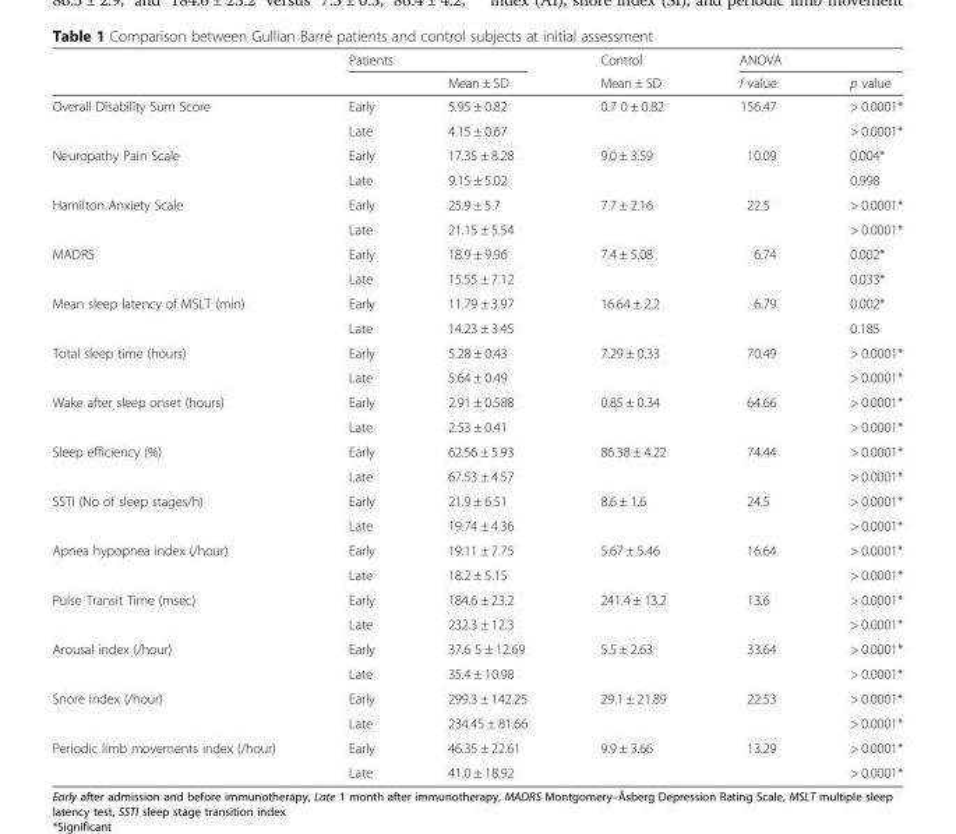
<table><thead><tr><td rowspan="2"></td><td colspan="2">Patients</td><td rowspan="2">Control Mean ± SD</td><td colspan="2">ANOVA</td></tr><tr><td></td><td>Mean ± SD</td><td>f value</td><td>p value</td></tr></thead><tbody><tr><td rowspan="2">Overall Disability Sum Score</td><td>Early</td><td>5.95 ± 0.82</td><td rowspan="2">0.7 0 ± 0.82</td><td rowspan="2">156.47</td><td>&gt; 0.0001*</td></tr><tr><td>Late</td><td>4.15 ± 0.67</td><td>&gt; 0.0001*</td></tr><tr><td rowspan="2">Neuropathy Pain Scale</td><td>Early</td><td>17.35 ± 8.28</td><td rowspan="2">9.0 ± 3.59</td><td rowspan="2">10.09</td><td>0.004*</td></tr><tr><td>Late</td><td>9.15 ± 5.02</td><td>0.998</td></tr><tr><td rowspan="2">Hamilton Anxiety Scale</td><td>Early</td><td>25.9 ± 5.7</td><td rowspan="2">7.7 ± 2.16</td><td rowspan="2">22.5</td><td>&gt; 0.0001*</td></tr><tr><td>Late</td><td>21.15 ± 5.54</td><td>&gt; 0.0001*</td></tr><tr><td rowspan="2">MADRS</td><td>Early</td><td>18.9 ± 9.96</td><td rowspan="2">7.4 ± 5.08</td><td rowspan="2">6.74</td><td>0.002*</td></tr><tr><td>Late</td><td>15.55 ± 7.12</td><td>0.033*</td></tr><tr><td rowspan="2">Mean sleep latency of MSLT (min)</td><td>Early</td><td>11.79 ± 3.97</td><td rowspan="2">16.64 ± 2.2</td><td rowspan="2">6.79</td><td>0.002*</td></tr><tr><td>Late</td><td>14.23 ± 3.45</td><td>0.185</td></tr><tr><td rowspan="2">Total sleep time (hours)</td><td>Early</td><td>5.28 ± 0.43</td><td rowspan="2">7.29 ± 0.33</td><td rowspan="2">70.49</td><td>&gt; 0.0001*</td></tr><tr><td>Late</td><td>5.64 ± 0.49</td><td>&gt; 0.0001*</td></tr><tr><td rowspan="2">Wake after sleep onset (hours)</td><td>Early</td><td>2.91 ± 0.588</td><td rowspan="2">0.85 ± 0.34</td><td rowspan="2">64.66</td><td>&gt; 0.0001*</td></tr><tr><td>Late</td><td>2.53 ± 0.41</td><td>&gt; 0.0001*</td></tr><tr><td rowspan="2">Sleep efficiency (%)</td><td>Early</td><td>62.56 ± 5.93</td><td rowspan="2">86.38 ± 4.22</td><td rowspan="2">74.44</td><td>&gt; 0.0001*</td></tr><tr><td>Late</td><td>67.53 ± 4.57</td><td>&gt; 0.0001*</td></tr><tr><td rowspan="2">SSTI (No of sleep stages/h)</td><td>Early</td><td>21.9 ± 6.51</td><td rowspan="2">8.6 ± 1.6</td><td rowspan="2">24.5</td><td>&gt; 0.0001*</td></tr><tr><td>Late</td><td>19.74 ± 4.36</td><td>&gt; 0.0001*</td></tr><tr><td rowspan="2">Apnea hypopnea index (/hour)</td><td>Early</td><td>19.11 ± 7.75</td><td rowspan="2">5.67 ± 5.46</td><td rowspan="2">16.64</td><td>&gt; 0.0001*</td></tr><tr><td>Late</td><td>18.2 ± 5.15</td><td>&gt; 0.0001*</td></tr><tr><td rowspan="2">Pulse Transit Time (msec)</td><td>Early</td><td>184.6 ± 23.2</td><td rowspan="2">241.4 ± 13.2</td><td rowspan="2">13.6</td><td>&gt; 0.0001*</td></tr><tr><td>Late</td><td>232.3 ± 12.3</td><td>&gt; 0.0001*</td></tr><tr><td rowspan="2">Arousal index (/hour)</td><td>Early</td><td>37.6 5 ± 12.69</td><td rowspan="2">5.5 ± 2.63</td><td rowspan="2">33.64</td><td>&gt; 0.0001*</td></tr><tr><td>Late</td><td>35.4 ± 10.98</td><td>&gt; 0.0001*</td></tr><tr><td rowspan="2">Snore Index (/hour)</td><td>Early</td><td>299.3 ± 142.25</td><td rowspan="2">29.1 ± 21.89</td><td rowspan="2">22.53</td><td>&gt; 0.0001*</td></tr><tr><td>Late</td><td>234.45 ± 81.66</td><td>&gt; 0.0001*</td></tr><tr><td rowspan="2">Periodic limb movements index (/hour)</td><td>Early</td><td>46.35 ± 22.61</td><td rowspan="2">9.9 ± 3.66</td><td rowspan="2">13.29</td><td>&gt; 0.0001*</td></tr><tr><td>Late</td><td>41.0 ± 18.92</td><td>&gt; 0.0001*</td></tr></tbody></table>